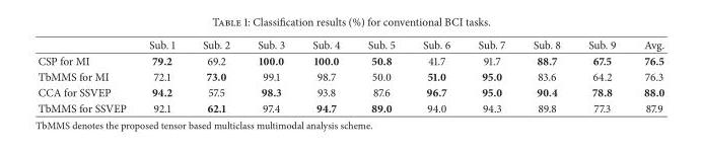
<table><thead><tr><td></td><td>Sub. 1</td><td>Sub. 2</td><td>Sub. 3</td><td>Sub. 4</td><td>Sub. 5</td><td>Sub. 6</td><td>Sub. 7</td><td>Sub. 8</td><td>Sub. 9</td><td>Avg.</td></tr></thead><tbody><tr><td>CSP for MI</td><td>79.2</td><td>69.2</td><td>100.0</td><td>100.0</td><td>50.8</td><td>41.7</td><td>91.7</td><td>88.7</td><td>67.5</td><td>76.5</td></tr><tr><td>TbMMS for MI</td><td>72.1</td><td>73.0</td><td>99.1</td><td>98.7</td><td>50.0</td><td>51.0</td><td>95.0</td><td>83.6</td><td>64.2</td><td>76.3</td></tr><tr><td>CCA for SSVEP</td><td>94.2</td><td>57.5</td><td>98.3</td><td>93.8</td><td>87.6</td><td>96.7</td><td>95.0</td><td>90.4</td><td>78.8</td><td>88.0</td></tr><tr><td>TbMMS for SSVEP</td><td>92.1</td><td>62.1</td><td>97.4</td><td>94.7</td><td>89.0</td><td>94.0</td><td>94.3</td><td>89.8</td><td>77.3</td><td>87.9</td></tr></tbody></table>